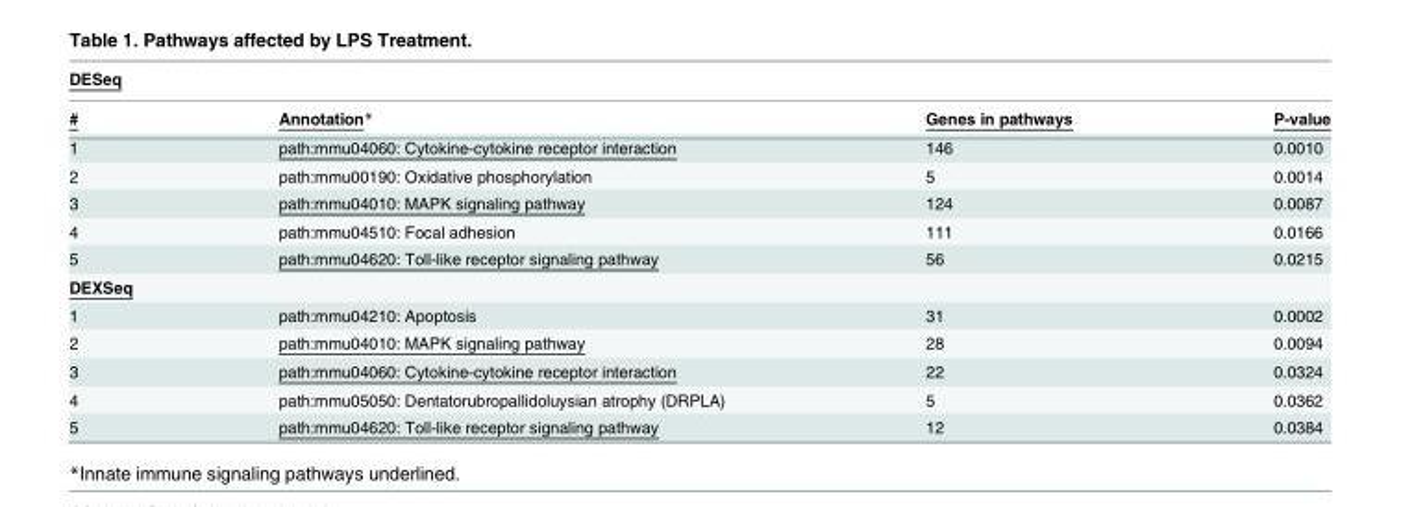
<table><thead><tr><td colspan="4">DESeq</td></tr><tr><td>#</td><td>Annotation*</td><td>Genes in pathways</td><td>P-value</td></tr></thead><tbody><tr><td>1</td><td>path:mmu04060: Cytokine-cytokine receptor interaction</td><td>146</td><td>0.0010</td></tr><tr><td>2</td><td>path:mmu00190: Oxidative phosphorylation</td><td>5</td><td>0.0014</td></tr><tr><td>3</td><td>path:mmu04010: MAPK signaling pathway</td><td>124</td><td>0.0087</td></tr><tr><td>4</td><td>path:mmu04510: Focal adhesion</td><td>111</td><td>0.0166</td></tr><tr><td>5</td><td>path:mmu04620: Toll-like receptor signaling pathway</td><td>56</td><td>0.0215</td></tr><tr><td colspan="4">DEXSeq</td></tr><tr><td>1</td><td>path:mmu04210: Apoptosis</td><td>31</td><td>0.0002</td></tr><tr><td>2</td><td>path:mmu04010: MAPK signaling pathway</td><td>28</td><td>0.0094</td></tr><tr><td>3</td><td>path:mmu04060: Cytokine-cytokine receptor interaction</td><td>22</td><td>0.0324</td></tr><tr><td>4</td><td>path:mmu05050: Dentatorubropallidoluysian atrophy (DRPLA)</td><td>5</td><td>0.0362</td></tr><tr><td>5</td><td>path:mmu04620: Toll-like receptor signaling pathway</td><td>12</td><td>0.0384</td></tr></tbody></table>